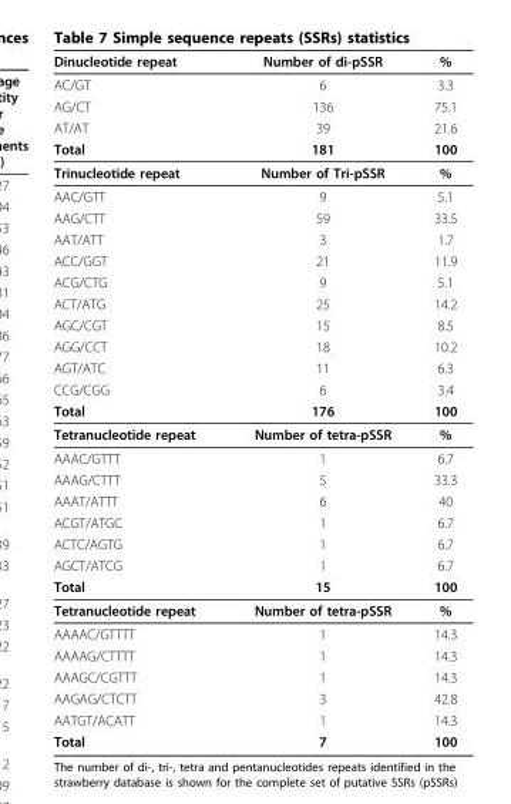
<table><thead><tr><td>Dinucleotide repeat</td><td>Number of di-pSSR</td><td>%</td></tr></thead><tbody><tr><td>AC/GT</td><td>6</td><td>3.3</td></tr><tr><td>AG/CT</td><td>136</td><td>75.1</td></tr><tr><td>AT/AT</td><td>39</td><td>21.6</td></tr><tr><td>Total</td><td>181</td><td>100</td></tr><tr><td>Trinucleotide repeat</td><td>Number of Tri-pSSR</td><td>%</td></tr><tr><td>AAC/GTT</td><td>9</td><td>5.1</td></tr><tr><td>AAG/CTT</td><td>59</td><td>33.5</td></tr><tr><td>AAT/ATT</td><td>3</td><td>1.7</td></tr><tr><td>ACC/GGT</td><td>21</td><td>11.9</td></tr><tr><td>ACG/CTG</td><td>9</td><td>5.1</td></tr><tr><td>ACT/ATG</td><td>25</td><td>14.2</td></tr><tr><td>AGC/CGT</td><td>15</td><td>8.5</td></tr><tr><td>AGG/CCT</td><td>18</td><td>10.2</td></tr><tr><td>AGT/ATC</td><td>11</td><td>6.3</td></tr><tr><td>CCG/CGG</td><td>6</td><td>3.4</td></tr><tr><td>Total</td><td>176</td><td>100</td></tr><tr><td>Tetranucleotide repeat</td><td>Number of tetra-pSSR</td><td>%</td></tr><tr><td>AAAC/GTTT</td><td>1</td><td>6.7</td></tr><tr><td>AAAG/CTTT</td><td>5</td><td>33.3</td></tr><tr><td>AAAT/ATTT</td><td>6</td><td>40</td></tr><tr><td>ACGT/ATGC</td><td>1</td><td>6.7</td></tr><tr><td>ACTC/AGTG</td><td>1</td><td>6.7</td></tr><tr><td>AGCT/ATCG</td><td>1</td><td>6.7</td></tr><tr><td>Total</td><td>15</td><td>100</td></tr><tr><td>Tetranucleotide repeat</td><td>Number of tetra-pSSR</td><td>%</td></tr><tr><td>AAAAC/GTTTT</td><td>1</td><td>14.3</td></tr><tr><td>AAAAG/CTTTT</td><td>1</td><td>14.3</td></tr><tr><td>AAAGC/CGTTT</td><td>1</td><td>14.3</td></tr><tr><td>AAGAG/CTCTT</td><td>3</td><td>42.8</td></tr><tr><td>AATGT/ACATT</td><td>1</td><td>14.3</td></tr><tr><td>Total</td><td>7</td><td>100</td></tr></tbody></table>